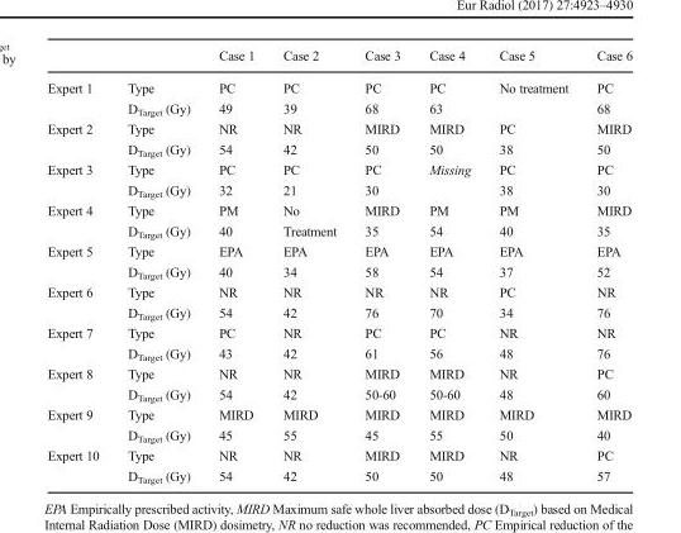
<table><thead><tr><td></td><td></td><td>Case 1</td><td>Case 2</td><td>Case 3</td><td>Case 4</td><td>Case 5</td><td>Case 6</td></tr></thead><tbody><tr><td>Expert 1</td><td>Type D<sub>Target</sub> (Gy)</td><td>PC 49</td><td>PC 39</td><td>PC 68</td><td>PC 63</td><td>No treatment</td><td>PC 68</td></tr><tr><td>Expert 2</td><td>Type D<sub>Target</sub> (Gy)</td><td>NR 54</td><td>NR 42</td><td>MIRD 50</td><td>MIRD 50</td><td>PC 38</td><td>MIRD 50</td></tr><tr><td>Expert 3</td><td>Type D<sub>Target</sub> (Gy)</td><td>PC 32</td><td>PC 21</td><td>PC 30</td><td>Missing</td><td>PC 38</td><td>PC 30</td></tr><tr><td>Expert 4</td><td>Type D<sub>Target</sub> (Gy)</td><td>PM 40</td><td>No Treatment</td><td>MIRD 35</td><td>PM 54</td><td>PM 40</td><td>MIRD 35</td></tr><tr><td>Expert 5</td><td>Type D<sub>Target</sub> (Gy)</td><td>EPA 40</td><td>EPA 34</td><td>EPA 58</td><td>EPA 54</td><td>EPA 37</td><td>EPA 52</td></tr><tr><td>Expert 6</td><td>Type D<sub>Target</sub> (Gy)</td><td>NR 54</td><td>NR 42</td><td>NR 76</td><td>NR 70</td><td>PC 34</td><td>NR 76</td></tr><tr><td>Expert 7</td><td>Type D<sub>Target</sub> (Gy)</td><td>PC 43</td><td>NR 42</td><td>PC 61</td><td>PC 56</td><td>NR 48</td><td>NR 76</td></tr><tr><td>Expert 8</td><td>Type D<sub>Target</sub> (Gy)</td><td>NR 54</td><td>NR 42</td><td>MIRD 50-60</td><td>MIRD 50-60</td><td>NR 48</td><td>PC 60</td></tr><tr><td>Expert 9</td><td>Type D<sub>Target</sub> (Gy)</td><td>MIRD 45</td><td>MIRD 55</td><td>MIRD 45</td><td>MIRD 55</td><td>MIRD 50</td><td>MIRD 40</td></tr><tr><td>Expert 10</td><td>Type D<sub>Target</sub> (Gy)</td><td>NR 54</td><td>NR 42</td><td>MIRD 50</td><td>MIRD 50</td><td>NR 48</td><td>PC 57</td></tr></tbody></table>